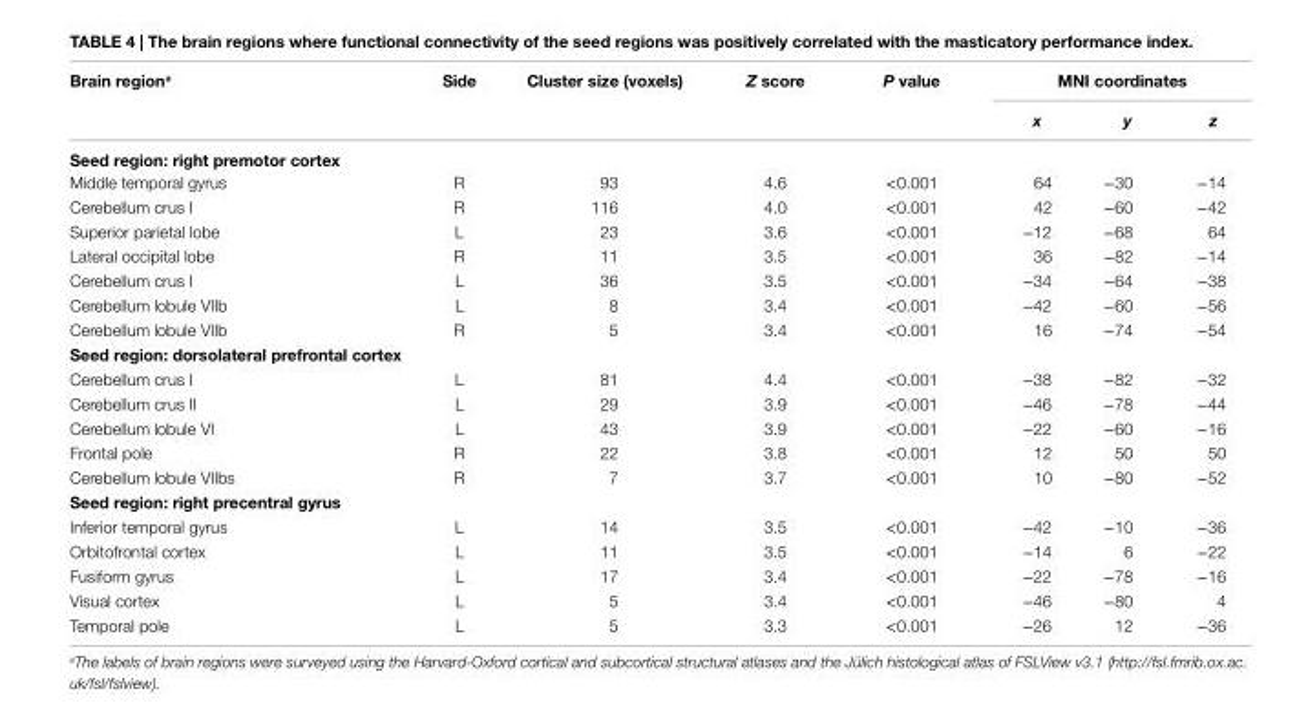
<table><thead><tr><td rowspan="2">Brain region<sup>a</sup></td><td rowspan="2">side</td><td rowspan="2">cluster size (voxels)</td><td rowspan="2">Z score</td><td rowspan="2">P value</td><td colspan="3">Mni coordinates</td></tr><tr><td>x</td><td>y</td><td>z</td></tr></thead><tbody><tr><td colspan="8">seed region: right premotor cortex</td></tr><tr><td>Middle temporal gyrus</td><td>R</td><td>93</td><td>4.6</td><td>&lt;0.001</td><td>64</td><td>−30</td><td>−14</td></tr><tr><td>Cerebellum crus I</td><td>R</td><td>116</td><td>4.0</td><td>&lt;0.001</td><td>42</td><td>−60</td><td>−42</td></tr><tr><td>Superior parietal lobe</td><td>L</td><td>23</td><td>3.6</td><td>&lt;0.001</td><td>−12</td><td>−68</td><td>64</td></tr><tr><td>Lateral occipital lobe</td><td>R</td><td>11</td><td>3.5</td><td>&lt;0.001</td><td>36</td><td>−82</td><td>−14</td></tr><tr><td>Cerebellum crus I</td><td>L</td><td>36</td><td>3.5</td><td>&lt;0.001</td><td>−34</td><td>−64</td><td>−38</td></tr><tr><td>Cerebellum lobule VIIb</td><td>L</td><td>8</td><td>3.4</td><td>&lt;0.001</td><td>−42</td><td>−60</td><td>−56</td></tr><tr><td>Cerebellum lobule VIIb</td><td>R</td><td>5</td><td>3.4</td><td>&lt;0.001</td><td>16</td><td>−74</td><td>−54</td></tr><tr><td colspan="8">seed region: dorsolateral prefrontal cortex</td></tr><tr><td>Cerebellum crus I</td><td>L</td><td>81</td><td>4.4</td><td>&lt;0.001</td><td>−38</td><td>−82</td><td>−32</td></tr><tr><td>Cerebellum crus II</td><td>L</td><td>29</td><td>3.9</td><td>&lt;0.001</td><td>−46</td><td>−78</td><td>−44</td></tr><tr><td>Cerebellum lobule VI</td><td>L</td><td>43</td><td>3.9</td><td>&lt;0.001</td><td>−22</td><td>−60</td><td>−16</td></tr><tr><td>Frontal pole</td><td>R</td><td>22</td><td>3.8</td><td>&lt;0.001</td><td>12</td><td>50</td><td>50</td></tr><tr><td>Cerebellum lobule VIIbs</td><td>R</td><td>7</td><td>3.7</td><td>&lt;0.001</td><td>10</td><td>−80</td><td>−52</td></tr><tr><td colspan="8">seed region: right precentral gyrus</td></tr><tr><td>Inferior temporal gyrus</td><td>L</td><td>14</td><td>3.5</td><td>&lt;0.001</td><td>−42</td><td>−10</td><td>−36</td></tr><tr><td>Orbitofrontal cortex</td><td>L</td><td>11</td><td>3.5</td><td>&lt;0.001</td><td>−14</td><td>6</td><td>−22</td></tr><tr><td>Fusiform gyrus</td><td>L</td><td>17</td><td>3.4</td><td>&lt;0.001</td><td>−22</td><td>−78</td><td>−16</td></tr><tr><td>Visual cortex</td><td>L</td><td>5</td><td>3.4</td><td>&lt;0.001</td><td>−46</td><td>−80</td><td>4</td></tr><tr><td>Temporal pole</td><td>L</td><td>5</td><td>3.3</td><td>&lt;0.001</td><td>−26</td><td>12</td><td>−36</td></tr></tbody></table>